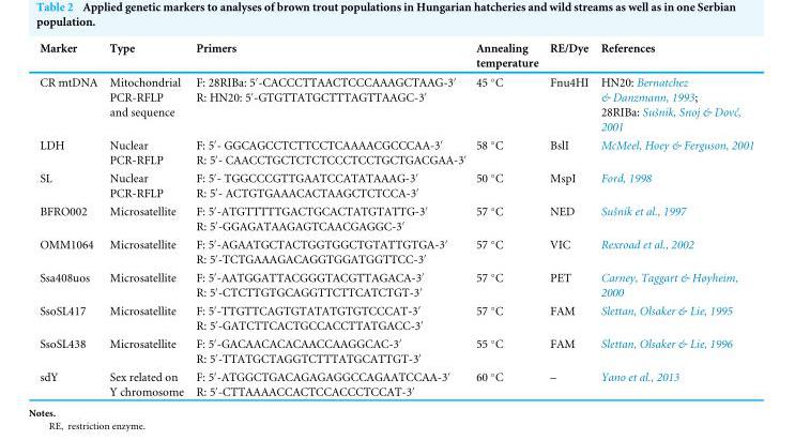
<table><thead><tr><td>Marker</td><td>Type</td><td>Primers</td><td>Annealing temperature</td><td>RE/Dye</td><td>References</td></tr></thead><tbody><tr><td>CR mtDNA</td><td>Mitochondrial PCR-RFLP and sequence</td><td>F: 28RIBa: 5′-CACCCTTAACTCCCAAAGCTAAG-3′ R: HN20: 5′-GTGTTATGCTTTAGTTAAGC-3′</td><td>45 ◦C</td><td>Fnu4HI</td><td>HN20: Bernatchez &amp; Danzmann, 1993; 28RIBa: Sušnik, Snoj &amp; Dovč, 2001</td></tr><tr><td>LDH</td><td>Nuclear PCR-RFLP</td><td>F: 5′- GGCAGCCTCTTCCTCAAAACGCCCAA-3′ R: 5′- CAACCTGCTCTCTCCCTCCTGCTGACGAA-3′</td><td>58 ◦C</td><td>BslI</td><td>McMeel, Hoey &amp; Ferguson, 2001</td></tr><tr><td>SL</td><td>Nuclear PCR-RFLP</td><td>F: 5′- TGGCCCGTTGAATCCATATAAAG-3′ R: 5′- ACTGTGAAACACTAAGCTCTCCA-3′</td><td>50 ◦C</td><td>MspI</td><td>Ford, 1998</td></tr><tr><td>BFRO002</td><td>Microsatellite</td><td>F: 5′-ATGTTTTTGACTGCACTATGTATTG-3′ R: 5′-GGAGATAAGAGTCAACGAGGC-3′</td><td>57 ◦C</td><td>NED</td><td>Sušnik et al., 1997</td></tr><tr><td>OMM1064</td><td>Microsatellite</td><td>F: 5′-AGAATGCTACTGGTGGCTGTATTGTGA-3′ R: 5′-TCTGAAAGACAGGTGGATGGTTCC-3′</td><td>57 ◦C</td><td>VIC</td><td>Rexroad et al., 2002</td></tr><tr><td>Ssa408uos</td><td>Microsatellite</td><td>F: 5′-AATGGATTACGGGTACGTTAGACA-3′ R: 5′-CTCTTGTGCAGGTTCTTCATCTGT-3′</td><td>57 ◦C</td><td>PET</td><td>Carney, Taggart &amp; Høyheim, 2000</td></tr><tr><td>SsoSL417</td><td>Microsatellite</td><td>F: 5′-TTGTTCAGTGTATATGTGTCCCAT-3′ R: 5′-GATCTTCACTGCCACCTTATGACC-3′</td><td>57 ◦C</td><td>FAM</td><td>Slettan, Olsaker &amp; Lie, 1995</td></tr><tr><td>SsoSL438</td><td>Microsatellite</td><td>F: 5′-GACAACACACAACCAAGGCAC-3′ R: 5′-TTATGCTAGGTCTTTATGCATTGT-3′</td><td>55 ◦C</td><td>FAM</td><td>Slettan, Olsaker &amp; Lie, 1996</td></tr><tr><td>sdY</td><td>Sex related on Y chromosome</td><td>F: 5′-ATGGCTGACAGAGAGGCCAGAATCCAA-3′ R: 5′-CTTAAAACCACTCCACCCTCCAT-3′</td><td>60 ◦C</td><td>–</td><td>Yano et al., 2013</td></tr></tbody></table>